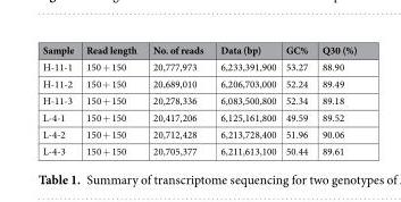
<table><thead><tr><td>Sample</td><td>Read length</td><td>No. of reads</td><td>Data (bp)</td><td>GC%</td><td>Q30 (%)</td></tr></thead><tbody><tr><td>H-11-1</td><td>150 + 150</td><td>20,777,973</td><td>6,233,391,900</td><td>53.27</td><td>88.90</td></tr><tr><td>H-11-2</td><td>150 + 150</td><td>20,689,010</td><td>6,206,703,000</td><td>52.24</td><td>89.49</td></tr><tr><td>H-11-3</td><td>150 + 150</td><td>20,278,336</td><td>6,083,500,800</td><td>52.34</td><td>89.18</td></tr><tr><td>L-4-1</td><td>150 + 150</td><td>20,417,206</td><td>6,125,161,800</td><td>49.59</td><td>89.52</td></tr><tr><td>L-4-2</td><td>150 + 150</td><td>20,712,428</td><td>6,213,728,400</td><td>51.96</td><td>90.06</td></tr><tr><td>L-4-3</td><td>150 + 150</td><td>20,705,377</td><td>6,211,613,100</td><td>50.44</td><td>89.61</td></tr></tbody></table>